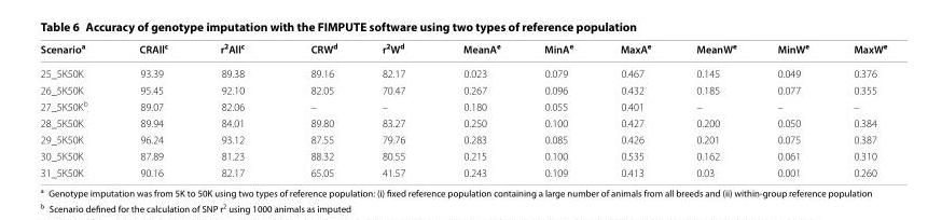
<table><thead><tr><td>Scenario<sup>a</sup></td><td>CRAll<sup>c</sup></td><td>r<sup>2</sup>All<sup>c</sup></td><td>CRW<sup>d</sup></td><td>r<sup>2</sup>W<sup>d</sup></td><td>MeanA<sup>e</sup></td><td>MinA<sup>e</sup></td><td>MaxA<sup>e</sup></td><td>MeanW<sup>e</sup></td><td>MinW<sup>e</sup></td><td>MaxW<sup>e</sup></td></tr></thead><tbody><tr><td>25_5K50K</td><td>93.39</td><td>89.38</td><td>89.16</td><td>82.17</td><td>0.023</td><td>0.079</td><td>0.467</td><td>0.145</td><td>0.049</td><td>0.376</td></tr><tr><td>26_5K50K</td><td>95.45</td><td>92.10</td><td>82.05</td><td>70.47</td><td>0.267</td><td>0.096</td><td>0.432</td><td>0.185</td><td>0.077</td><td>0.355</td></tr><tr><td>27_5K50K<sup>b</sup></td><td>89.07</td><td>82.06</td><td>–</td><td>–</td><td>0.180</td><td>0.055</td><td>0.401</td><td>–</td><td>–</td><td>–</td></tr><tr><td>28_5K50K</td><td>89.94</td><td>84.01</td><td>89.80</td><td>83.27</td><td>0.250</td><td>0.100</td><td>0.427</td><td>0.200</td><td>0.050</td><td>0.384</td></tr><tr><td>29_5K50K</td><td>96.24</td><td>93.12</td><td>87.55</td><td>79.76</td><td>0.283</td><td>0.085</td><td>0.426</td><td>0.201</td><td>0.075</td><td>0.387</td></tr><tr><td>30_5K50K</td><td>87.89</td><td>81.23</td><td>88.32</td><td>80.55</td><td>0.215</td><td>0.100</td><td>0.535</td><td>0.162</td><td>0.061</td><td>0.310</td></tr><tr><td>31_5K50K</td><td>90.16</td><td>82.17</td><td>65.05</td><td>41.57</td><td>0.243</td><td>0.109</td><td>0.413</td><td>0.03</td><td>0.001</td><td>0.260</td></tr></tbody></table>